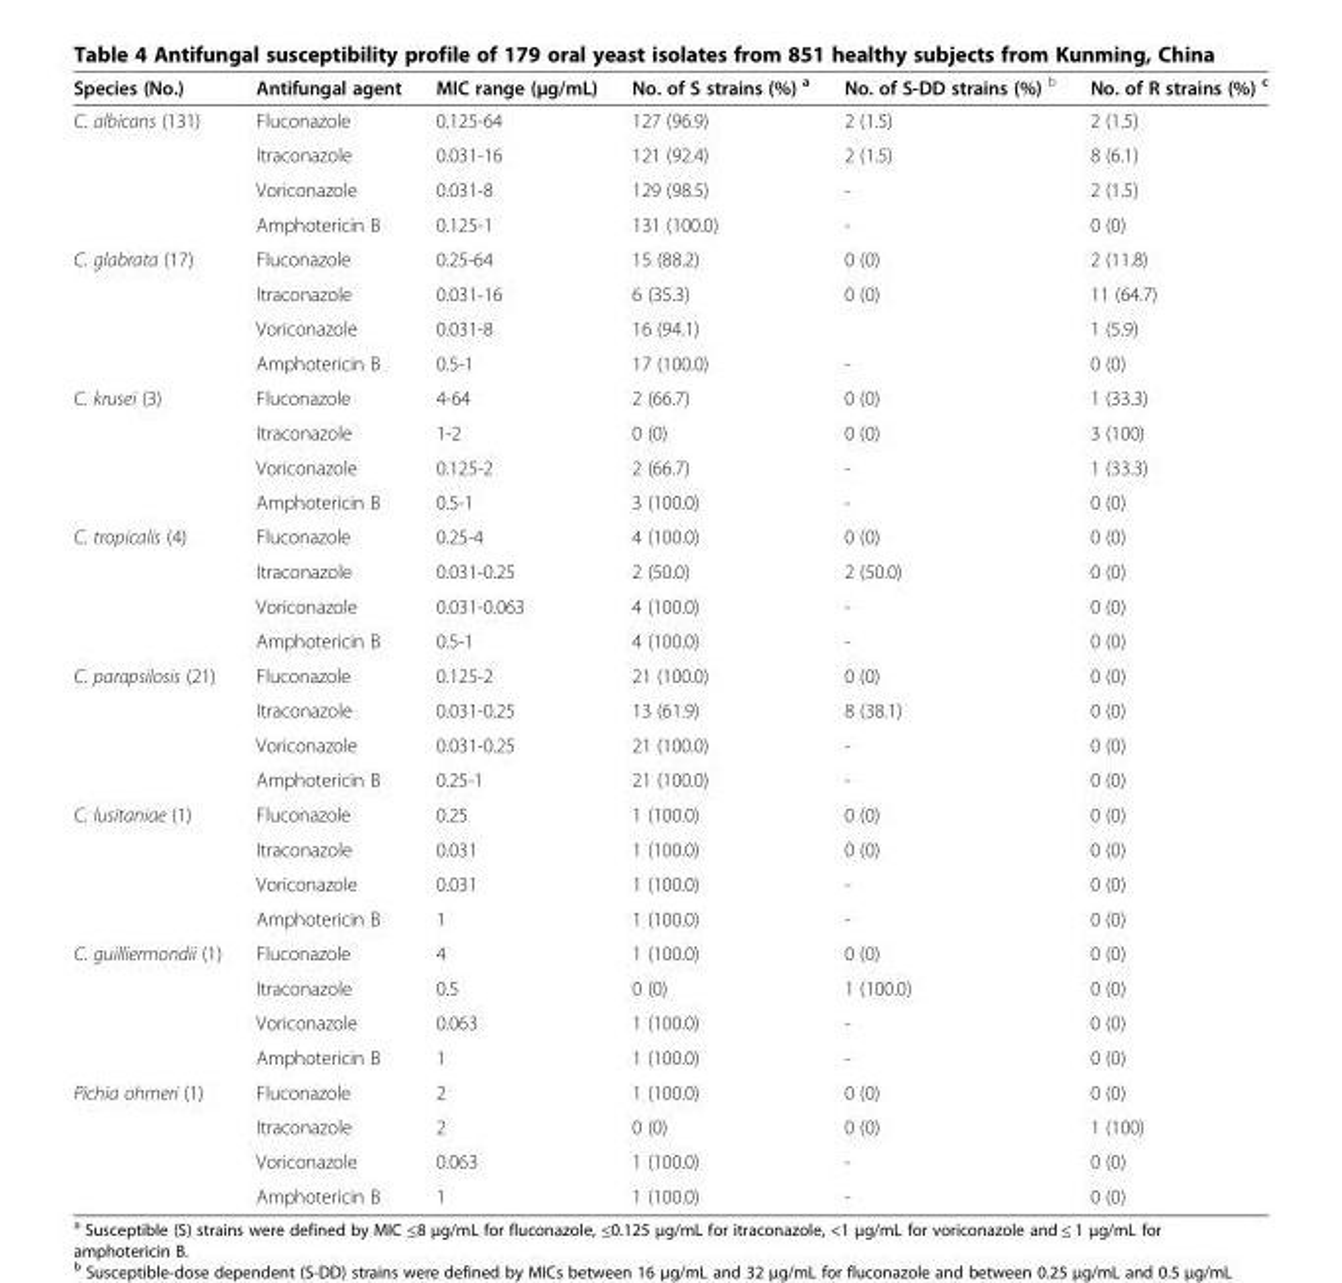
<table><thead><tr><td>Species (No.)</td><td>Antifungal agent</td><td>MIC range (μg/mL)</td><td>No. of S strains (%) <sup>a</sup></td><td>No. of S-DD strains (%) <sup>b</sup></td><td>No. of R strains (%) <sup>c</sup></td></tr></thead><tbody><tr><td rowspan="4">C. albicans (131)</td><td>Fluconazole</td><td>0.125-64</td><td>127 (96.9)</td><td>2 (1.5)</td><td>2 (1.5)</td></tr><tr><td>Itraconazole</td><td>0.031-16</td><td>121 (92.4)</td><td>2 (1.5)</td><td>8 (6.1)</td></tr><tr><td>Voriconazole</td><td>0.031-8</td><td>129 (98.5)</td><td>-</td><td>2 (1.5)</td></tr><tr><td>Amphotericin B</td><td>0.125-1</td><td>131 (100.0)</td><td>-</td><td>0 (0)</td></tr><tr><td rowspan="4">C. glabrata (17)</td><td>Fluconazole</td><td>0.25-64</td><td>15 (88.2)</td><td>0 (0)</td><td>2 (11.8)</td></tr><tr><td>Itraconazole</td><td>0.031-16</td><td>6 (35.3)</td><td>0 (0)</td><td>11 (64.7)</td></tr><tr><td>Voriconazole</td><td>0.031-8</td><td>16 (94.1)</td><td></td><td>1 (5.9)</td></tr><tr><td>Amphotericin B</td><td>0.5-1</td><td>17 (100.0)</td><td>-</td><td>0 (0)</td></tr><tr><td rowspan="4">C. krusei (3)</td><td>Fluconazole</td><td>4-64</td><td>2 (66.7)</td><td>0 (0)</td><td>1 (33.3)</td></tr><tr><td>Itraconazole</td><td>1-2</td><td>0 (0)</td><td>0 (0)</td><td>3 (100)</td></tr><tr><td>Voriconazole</td><td>0.125-2</td><td>2 (66.7)</td><td>-</td><td>1 (33.3)</td></tr><tr><td>Amphotericin B</td><td>0.5-1</td><td>3 (100.0)</td><td>-</td><td>0 (0)</td></tr><tr><td rowspan="4">C. tropicalis (4)</td><td>Fluconazole</td><td>0.25-4</td><td>4 (100.0)</td><td>0 (0)</td><td>0 (0)</td></tr><tr><td>Itraconazole</td><td>0.031-0.25</td><td>2 (50.0)</td><td>2 (50.0)</td><td>0 (0)</td></tr><tr><td>Voriconazole</td><td>0.031-0.063</td><td>4 (100.0)</td><td>-</td><td>0 (0)</td></tr><tr><td>Amphotericin B</td><td>0.5-1</td><td>4 (100.0)</td><td>-</td><td>0 (0)</td></tr><tr><td rowspan="4">C. parapsilosis (21)</td><td>Fluconazole</td><td>0.125-2</td><td>21 (100.0)</td><td>0 (0)</td><td>0 (0)</td></tr><tr><td>Itraconazole</td><td>0.031-0.25</td><td>13 (61.9)</td><td>8 (38.1)</td><td>0 (0)</td></tr><tr><td>Voriconazole</td><td>0.031-0.25</td><td>21 (100.0)</td><td>-</td><td>0 (0)</td></tr><tr><td>Amphotericin B</td><td>0.25-1</td><td>21 (100.0)</td><td>-</td><td>0 (0)</td></tr><tr><td rowspan="4">C. lusitaniae (1)</td><td>Fluconazole</td><td>0.25</td><td>1 (100.0)</td><td>0 (0)</td><td>0 (0)</td></tr><tr><td>Itraconazole</td><td>0.031</td><td>1 (100.0)</td><td>0 (0)</td><td>0 (0)</td></tr><tr><td>Voriconazole</td><td>0.031</td><td>1 (100.0)</td><td>-</td><td>0 (0)</td></tr><tr><td>Amphotericin B</td><td>1</td><td>1 (100.0)</td><td>-</td><td>0 (0)</td></tr><tr><td rowspan="4">C. guilliermondii (1)</td><td>Fluconazole</td><td>4</td><td>1 (100.0)</td><td>0 (0)</td><td>0 (0)</td></tr><tr><td>Itraconazole</td><td>0.5</td><td>0 (0)</td><td>1 (100.0)</td><td>0 (0)</td></tr><tr><td>Voriconazole</td><td>0.063</td><td>1 (100.0)</td><td>-</td><td>0 (0)</td></tr><tr><td>Amphotericin B</td><td>1</td><td>1 (100.0)</td><td>-</td><td>0 (0)</td></tr><tr><td rowspan="4">Pichia ohmeri (1)</td><td>Fluconazole</td><td>2</td><td>1 (100.0)</td><td>0 (0)</td><td>0 (0)</td></tr><tr><td>Itraconazole</td><td>2</td><td>0 (0)</td><td>0 (0)</td><td>1 (100)</td></tr><tr><td>Voriconazole</td><td>0.063</td><td>1 (100.0)</td><td>-</td><td>0 (0)</td></tr><tr><td>Amphotericin B</td><td>1</td><td>1 (100.0)</td><td>-</td><td>0 (0)</td></tr></tbody></table>